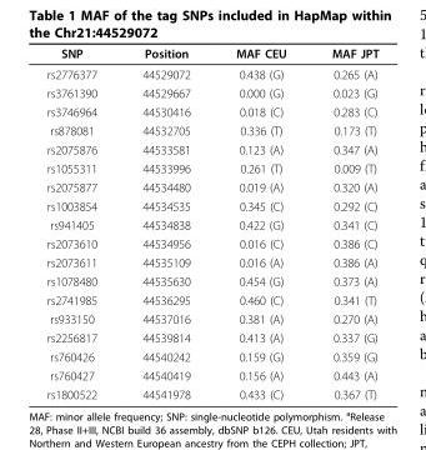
<table><thead><tr><td>SNP</td><td>Position</td><td>MAF CEU</td><td>MAF JPT</td></tr></thead><tbody><tr><td>rs2776377</td><td>44529072</td><td>0.438 (G)</td><td>0.265 (A)</td></tr><tr><td>rs3761390</td><td>44529667</td><td>0.000 (G)</td><td>0.023 (G)</td></tr><tr><td>rs3746964</td><td>44530416</td><td>0.018 (C)</td><td>0.283 (C)</td></tr><tr><td>rs878081</td><td>44532705</td><td>0.336 (T)</td><td>0.173 (T)</td></tr><tr><td>rs2075876</td><td>44533581</td><td>0.123 (A)</td><td>0.347 (A)</td></tr><tr><td>rs1055311</td><td>44533996</td><td>0.261 (T)</td><td>0.009 (T)</td></tr><tr><td>rs2075877</td><td>44534480</td><td>0.019 (A)</td><td>0.320 (A)</td></tr><tr><td>rs1003854</td><td>44534535</td><td>0.345 (C)</td><td>0.292 (C)</td></tr><tr><td>rs941405</td><td>44534838</td><td>0.422 (G)</td><td>0.341 (C)</td></tr><tr><td>rs2073610</td><td>44534956</td><td>0.016 (C)</td><td>0.386 (C)</td></tr><tr><td>rs2073611</td><td>44535109</td><td>0.016 (A)</td><td>0.386 (A)</td></tr><tr><td>rs1078480</td><td>44535630</td><td>0.454 (G)</td><td>0.373 (A)</td></tr><tr><td>rs2741985</td><td>44536295</td><td>0.460 (C)</td><td>0.341 (T)</td></tr><tr><td>rs933150</td><td>44537016</td><td>0.381 (A)</td><td>0.270 (A)</td></tr><tr><td>rs2256817</td><td>44539814</td><td>0.413 (A)</td><td>0.337 (G)</td></tr><tr><td>rs760426</td><td>44540242</td><td>0.159 (G)</td><td>0.359 (G)</td></tr><tr><td>rs760427</td><td>44540419</td><td>0.156 (A)</td><td>0.443 (A)</td></tr><tr><td>rs1800522</td><td>44541978</td><td>0.433 (C)</td><td>0.367 (T)</td></tr></tbody></table>